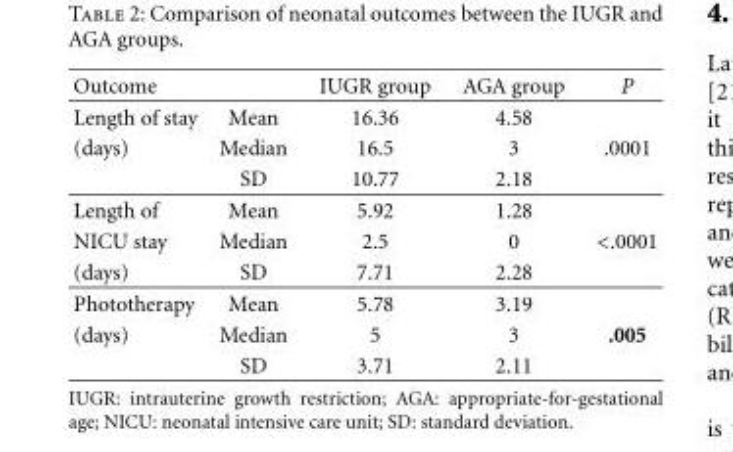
<table><thead><tr><td>Outcome</td><td></td><td>IUGR group</td><td>AGA group</td><td>P</td></tr></thead><tbody><tr><td>Length of stay</td><td>Mean</td><td>16.36</td><td>4.58</td><td></td></tr><tr><td rowspan="2">(days)</td><td>Median</td><td>16.5</td><td>3</td><td>.0001</td></tr><tr><td>SD</td><td>10.77</td><td>2.18</td><td></td></tr><tr><td>Length of</td><td>Mean</td><td>5.92</td><td>1.28</td><td></td></tr><tr><td>NICU stay</td><td>Median</td><td>2.5</td><td>0</td><td>&lt;.0001</td></tr><tr><td>(days)</td><td>SD</td><td>7.71</td><td>2.28</td><td></td></tr><tr><td>Phototherapy</td><td>Mean</td><td>5.78</td><td>3.19</td><td></td></tr><tr><td rowspan="2">(days)</td><td>Median</td><td>5</td><td>3</td><td>.005</td></tr><tr><td>SD</td><td>3.71</td><td>2.11</td><td></td></tr></tbody></table>